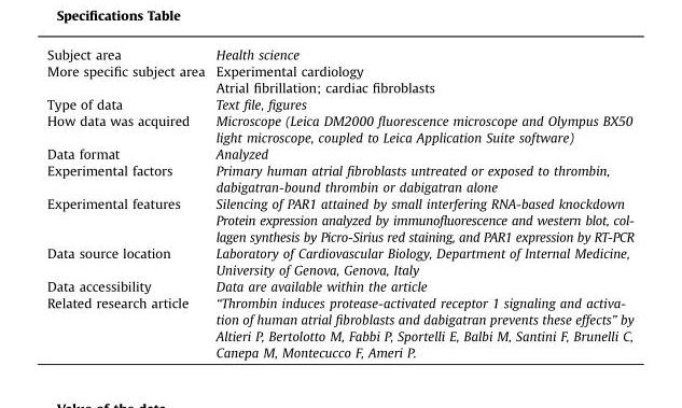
<table><tbody><tr><td>Subject area</td><td>Health science</td></tr><tr><td rowspan="2">More specific subject area</td><td>Experimental cardiology</td></tr><tr><td>Atrial fibrillation; cardiac fibroblasts</td></tr><tr><td>Type of data</td><td>Text file, figures</td></tr><tr><td>How data was acquired</td><td>Microscope (Leica DM2000 fluorescence microscope and Olympus BX50 light microscope, coupled to Leica Application Suite software)</td></tr><tr><td>Data format</td><td>Analyzed</td></tr><tr><td>Experimental factors</td><td>Primary human atrial fibroblasts untreated or exposed to thrombin, dabigatran-bound thrombin or dabigatran alone</td></tr><tr><td rowspan="2">Experimental features</td><td>Silencing of PAR1 attained by small interfering RNA-based knockdown</td></tr><tr><td>Protein expression analyzed by immunofluorescence and western blot, col- lagen synthesis by Picro-Sirius red staining, and PAR1 expression by RT-PCR</td></tr><tr><td>Data source location</td><td>Laboratory of Cardiovascular Biology, Department of Internal Medicine, University of Genova, Genova, Italy</td></tr><tr><td>Data accessibility</td><td>Data are available within the article</td></tr><tr><td>Related research article</td><td>“Thrombin induces protease-activated receptor 1 signaling and activa- tion of human atrial fibroblasts and dabigatran prevents these effects” by Altieri P, Bertolotto M, Fabbi P, Sportelli E, Balbi M, Santini F, Brunelli C, Canepa M, Montecucco F, Ameri P.</td></tr></tbody></table>